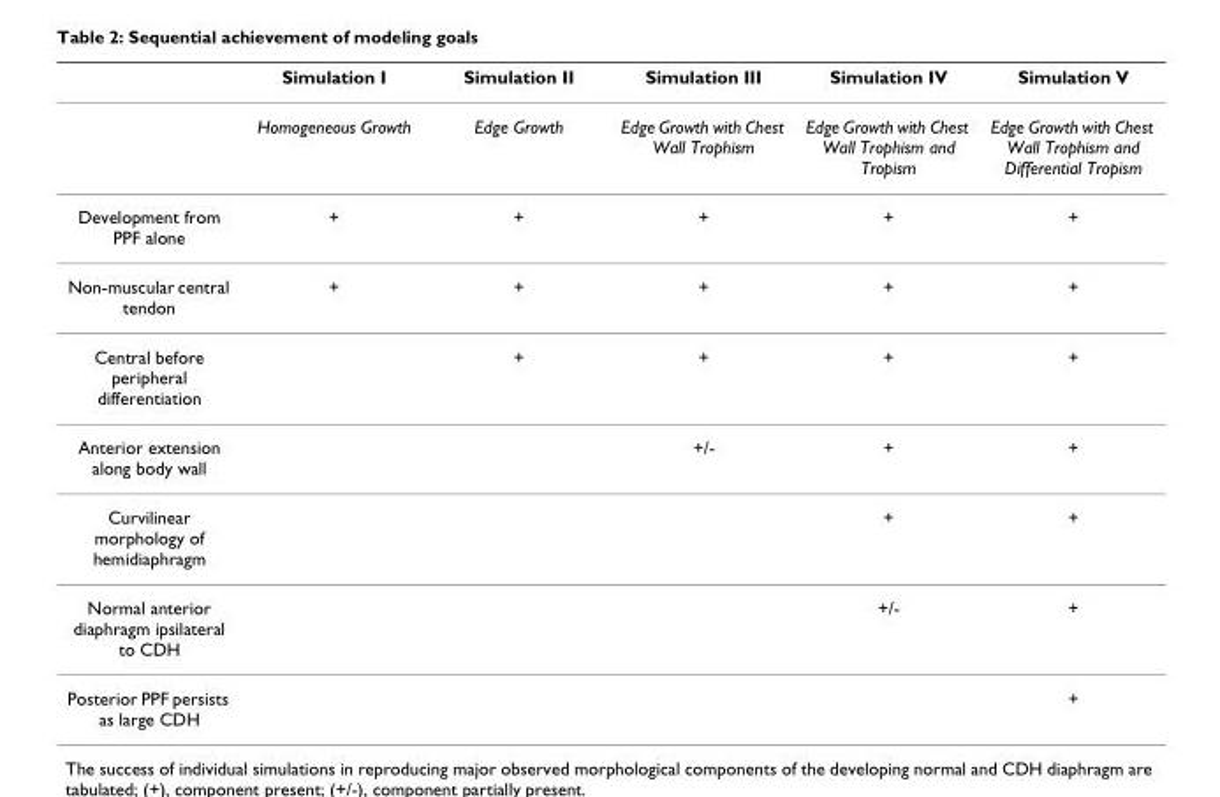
<table><thead><tr><td></td><td>Simulation I</td><td>Simulation II</td><td>Simulation III</td><td>Simulation IV</td><td>Simulation V</td></tr></thead><tbody><tr><td></td><td>Homogeneous Growth</td><td>Edge Growth</td><td>Edge Growth with Chest Wall Trophism</td><td>Edge Growth with Chest Wall Trophism and Tropism</td><td>Edge Growth with Chest Wall Trophism and Differential Tropism</td></tr><tr><td>Development from PPF alone</td><td>+</td><td>+</td><td>+</td><td>+</td><td>+</td></tr><tr><td>Non-muscular central tendon</td><td>+</td><td>+</td><td>+</td><td>+</td><td>+</td></tr><tr><td>Central before peripheral differentiation</td><td></td><td>+</td><td>+</td><td>+</td><td>+</td></tr><tr><td>Anterior extension along body wall</td><td></td><td></td><td>+/-</td><td>+</td><td>+</td></tr><tr><td>Curvilinear morphology of hemidiaphragm</td><td></td><td></td><td></td><td>+</td><td>+</td></tr><tr><td>Normal anterior diaphragm ipsilateral to CDH</td><td></td><td></td><td></td><td>+/-</td><td>+</td></tr><tr><td>Posterior PPF persists as large CDH</td><td></td><td></td><td></td><td></td><td>+</td></tr></tbody></table>